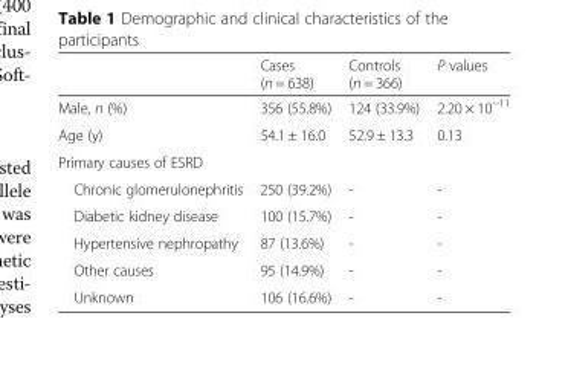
<table><thead><tr><td></td><td>Cases (n = 638)</td><td>Controls (n = 366)</td><td>P values</td></tr></thead><tbody><tr><td>Male, n (%)</td><td>356 (55.8%)</td><td>124 (33.9%)</td><td>2.20 × 10<sup>−11</sup></td></tr><tr><td>Age (y)</td><td>54.1 ± 16.0</td><td>52.9 ± 13.3</td><td>0.13</td></tr><tr><td colspan="4">Primary causes of ESRD</td></tr><tr><td>Chronic glomerulonephritis</td><td>250 (39.2%)</td><td>-</td><td>-</td></tr><tr><td>Diabetic kidney disease</td><td>100 (15.7%)</td><td>-</td><td>-</td></tr><tr><td>Hypertensive nephropathy</td><td>87 (13.6%)</td><td>-</td><td>-</td></tr><tr><td>Other causes</td><td>95 (14.9%)</td><td>-</td><td>-</td></tr><tr><td>Unknown</td><td>106 (16.6%)</td><td>-</td><td>-</td></tr></tbody></table>